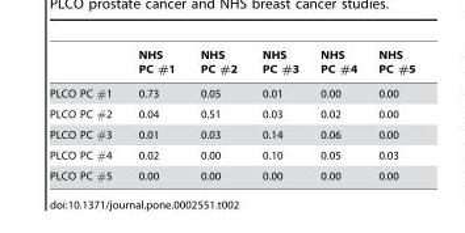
<table><thead><tr><td></td><td>NHS PC #1</td><td>NHS PC #2</td><td>NHS PC #3</td><td>NHS PC #4</td><td>NHS PC #5</td></tr></thead><tbody><tr><td>PLCO PC #1</td><td>0.73</td><td>0.05</td><td>0.01</td><td>0.00</td><td>0.00</td></tr><tr><td>PLCO PC #2</td><td>0.04</td><td>0.51</td><td>0.03</td><td>0.02</td><td>0.00</td></tr><tr><td>PLCO PC #3</td><td>0.01</td><td>0.03</td><td>0.14</td><td>0.06</td><td>0.00</td></tr><tr><td>PLCO PC #4</td><td>0.02</td><td>0.00</td><td>0.10</td><td>0.05</td><td>0.03</td></tr><tr><td>PLCO PC #5</td><td>0.00</td><td>0.00</td><td>0.00</td><td>0.00</td><td>0.00</td></tr></tbody></table>